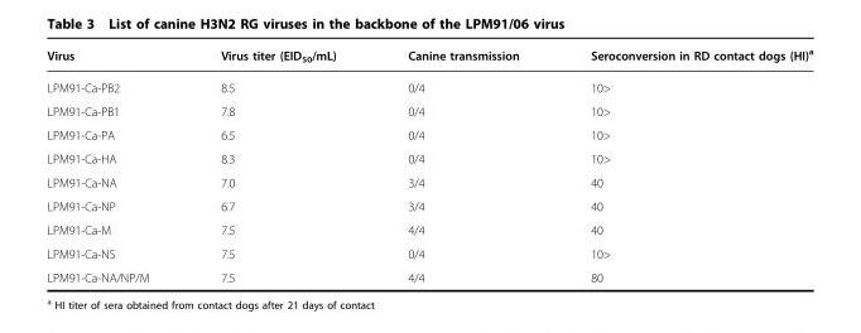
<table><thead><tr><td>Virus</td><td>Virus titer (EID<sub>50</sub>/mL)</td><td>Canine transmission</td><td>Seroconversion in RD contact dogs (HI)<sup>a</sup></td></tr></thead><tbody><tr><td>LPM91-Ca-PB2</td><td>8.5</td><td>0/4</td><td>10&gt;</td></tr><tr><td>LPM91-Ca-PB1</td><td>7.8</td><td>0/4</td><td>10&gt;</td></tr><tr><td>LPM91-Ca-PA</td><td>6.5</td><td>0/4</td><td>10&gt;</td></tr><tr><td>LPM91-Ca-HA</td><td>8.3</td><td>0/4</td><td>10&gt;</td></tr><tr><td>LPM91-Ca-NA</td><td>7.0</td><td>3/4</td><td>40</td></tr><tr><td>LPM91-Ca-NP</td><td>6.7</td><td>3/4</td><td>40</td></tr><tr><td>LPM91-Ca-M</td><td>7.5</td><td>4/4</td><td>40</td></tr><tr><td>LPM91-Ca-NS</td><td>7.5</td><td>0/4</td><td>10&gt;</td></tr><tr><td>LPM91-Ca-NA/NP/M</td><td>7.5</td><td>4/4</td><td>80</td></tr></tbody></table>